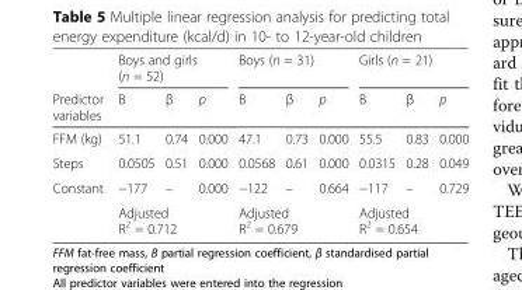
<table><thead><tr><td rowspan="2">Predictor variables</td><td colspan="3">Boys and girls (n = 52)</td><td colspan="3">Boys (n = 31)</td><td colspan="3">Girls (n = 21)</td></tr><tr><td>B</td><td>β</td><td>p</td><td>B</td><td>β</td><td>p</td><td>B</td><td>β</td><td>p</td></tr></thead><tbody><tr><td>FFM (kg)</td><td>51.1</td><td>0.74</td><td>0.000</td><td>47.1</td><td>0.73</td><td>0.000</td><td>55.5</td><td>0.83</td><td>0.000</td></tr><tr><td>Steps</td><td>0.0505</td><td>0.51</td><td>0.000</td><td>0.0568</td><td>0.61</td><td>0.000</td><td>0.0315</td><td>0.28</td><td>0.049</td></tr><tr><td rowspan="2">Constant</td><td>−177</td><td>–</td><td>0.000</td><td>−122</td><td>–</td><td>0.664</td><td>−117</td><td>–</td><td>0.729</td></tr><tr><td colspan="3">Adjusted R<sup>2</sup> = 0.712</td><td colspan="3">Adjusted R<sup>2</sup> = 0.679</td><td colspan="3">Adjusted R<sup>2</sup> = 0.654</td></tr></tbody></table>